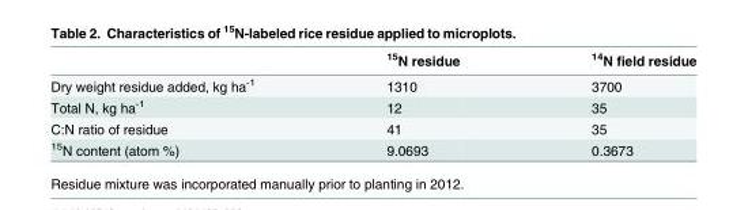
<table><thead><tr><td></td><td><sup>15</sup>N residue</td><td><sup>14</sup>N field residue</td></tr></thead><tbody><tr><td>Dry weight residue added, kg ha<sup>-1</sup></td><td>1310</td><td>3700</td></tr><tr><td>Total N, kg ha<sup>-1</sup></td><td>12</td><td>35</td></tr><tr><td>C:N ratio of residue</td><td>41</td><td>35</td></tr><tr><td><sup>15</sup>N content (atom %)</td><td>9.0693</td><td>0.3673</td></tr></tbody></table>